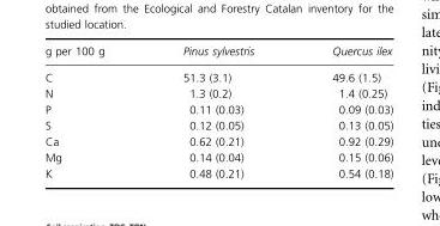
<table><thead><tr><td>g per 100 g</td><td>Pinus sylvestris</td><td>Quercus ilex</td></tr></thead><tbody><tr><td>C</td><td>51.3 (3.1)</td><td>49.6 (1.5)</td></tr><tr><td>N</td><td>1.3 (0.2)</td><td>1.4 (0.25)</td></tr><tr><td>P</td><td>0.11 (0.03)</td><td>0.09 (0.03)</td></tr><tr><td>S</td><td>0.12 (0.05)</td><td>0.13 (0.05)</td></tr><tr><td>Ca</td><td>0.62 (0.21)</td><td>0.92 (0.29)</td></tr><tr><td>Mg</td><td>0.14 (0.04)</td><td>0.15 (0.06)</td></tr><tr><td>K</td><td>0.48 (0.21)</td><td>0.54 (0.18)</td></tr></tbody></table>